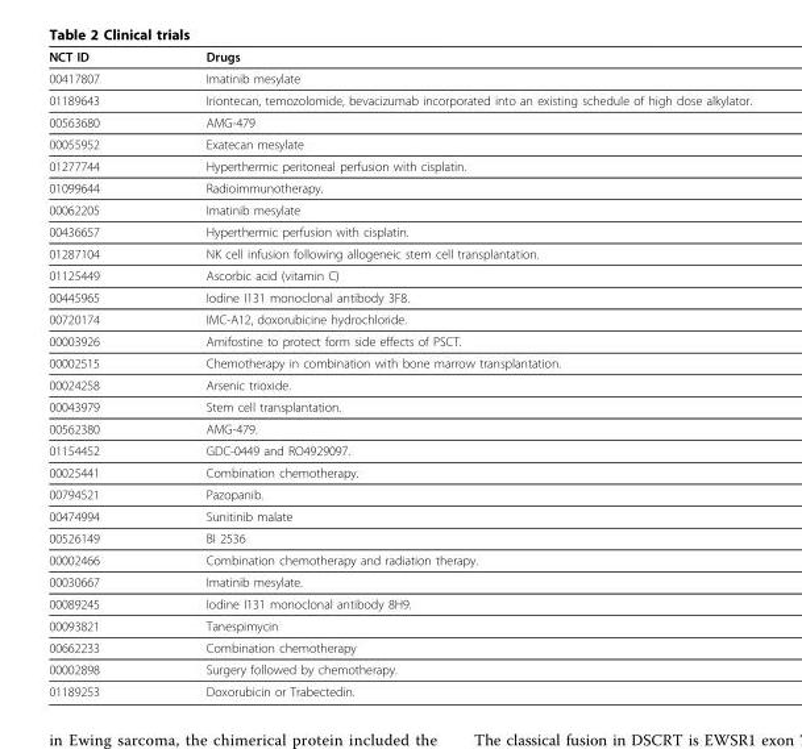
<table><thead><tr><td>NCT ID</td><td>Drugs</td></tr></thead><tbody><tr><td>00417807</td><td>Imatinib mesylate</td></tr><tr><td>01189643</td><td>Iriontecan, temozolomide, bevacizumab incorporated into an existing schedule of high dose alkylator.</td></tr><tr><td>00563680</td><td>AMG-479</td></tr><tr><td>00055952</td><td>Exatecan mesylate</td></tr><tr><td>01277744</td><td>Hyperthermic peritoneal perfusion with cisplatin.</td></tr><tr><td>01099644</td><td>Radioimmunotherapy.</td></tr><tr><td>00062205</td><td>Imatinib mesylate</td></tr><tr><td>00436657</td><td>Hyperthermic perfusion with cisplatin.</td></tr><tr><td>01287104</td><td>NK cell infusion following allogeneic stem cell transplantation.</td></tr><tr><td>01125449</td><td>Ascorbic acid (vitamin C)</td></tr><tr><td>00445965</td><td>Iodine I131 monoclonal antibody 3F8.</td></tr><tr><td>00720174</td><td>IMC-A12, doxorubicine hydrochloride.</td></tr><tr><td>00003926</td><td>Amifostine to protect form side effects of PSCT.</td></tr><tr><td>00002515</td><td>Chemotherapy in combination with bone marrow transplantation.</td></tr><tr><td>00024258</td><td>Arsenic trioxide.</td></tr><tr><td>00043979</td><td>Stem cell transplantation.</td></tr><tr><td>00562380</td><td>AMG-479.</td></tr><tr><td>01154452</td><td>GDC-0449 and RO4929097.</td></tr><tr><td>00025441</td><td>Combination chemotherapy.</td></tr><tr><td>00794521</td><td>Pazopanib.</td></tr><tr><td>00474994</td><td>Sunitinib malate</td></tr><tr><td>00526149</td><td>BI 2536</td></tr><tr><td>00002466</td><td>Combination chemotherapy and radiation therapy.</td></tr><tr><td>00030667</td><td>Imatinib mesylate.</td></tr><tr><td>00089245</td><td>Iodine I131 monoclonal antibody 8H9.</td></tr><tr><td>00093821</td><td>Tanespimycin</td></tr><tr><td>00662233</td><td>Combination chemotherapy</td></tr><tr><td>00002898</td><td>Surgery followed by chemotherapy.</td></tr><tr><td>01189253</td><td>Doxorubicin or Trabectedin.</td></tr></tbody></table>